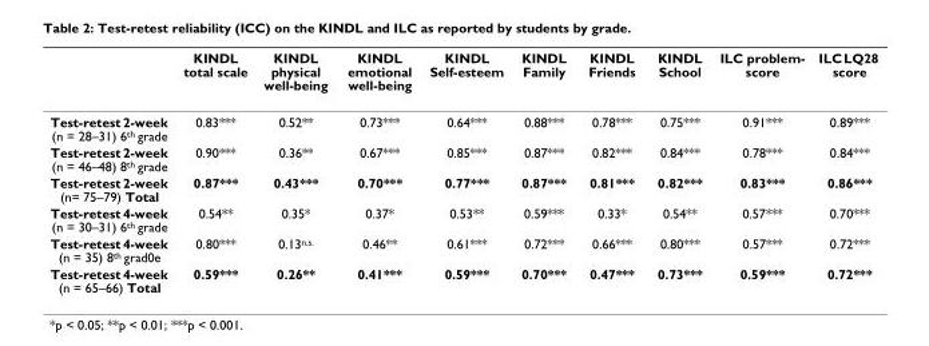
<table><thead><tr><td></td><td>KINDL total scale</td><td>KINDL physical well-being</td><td>KINDL emotional well-being</td><td>KINDL Self-esteem</td><td>KINDL Family</td><td>KINDL Friends</td><td>KINDL School</td><td>ILC problem- score</td><td>ILC LQ28 score</td></tr></thead><tbody><tr><td>Test-retest 2-week (n = 28–31) 6<sup>th</sup> grade</td><td>0.83***</td><td>0.52**</td><td>0.73***</td><td>0.64***</td><td>0.88***</td><td>0.78***</td><td>0.75***</td><td>0.91***</td><td>0.89***</td></tr><tr><td>Test-retest 2-week (n = 46–48) 8<sup>th</sup> grade</td><td>0.90***</td><td>0.36**</td><td>0.67***</td><td>0.85***</td><td>0.87***</td><td>0.82***</td><td>0.84***</td><td>0.78***</td><td>0.84***</td></tr><tr><td>Test-retest 2-week (n= 75–79) Total</td><td>0.87***</td><td>0.43***</td><td>0.70***</td><td>0.77***</td><td>0.87***</td><td>0.81***</td><td>0.82***</td><td>0.83***</td><td>0.86***</td></tr><tr><td>Test-retest 4-week (n = 30–31) 6<sup>th</sup> grade</td><td>0.54**</td><td>0.35*</td><td>0.37*</td><td>0.53**</td><td>0.59***</td><td>0.33*</td><td>0.54**</td><td>0.57***</td><td>0.70***</td></tr><tr><td>Test-retest 4-week (n = 35) 8<sup>th</sup> grad0e</td><td>0.80***</td><td>0.13<sup>n.s.</sup></td><td>0.46**</td><td>0.61***</td><td>0.72***</td><td>0.66***</td><td>0.80***</td><td>0.57***</td><td>0.72***</td></tr><tr><td>Test-retest 4-week (n = 65–66) Total</td><td>0.59***</td><td>0.26**</td><td>0.41***</td><td>0.59***</td><td>0.70***</td><td>0.47***</td><td>0.73***</td><td>0.59***</td><td>0.72***</td></tr></tbody></table>